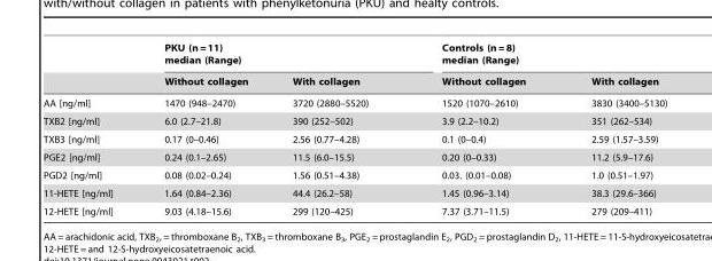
<table><thead><tr><td rowspan="2"></td><td colspan="2">PKU (n = 11) median (Range)</td><td colspan="2">Controls (n = 8) median (Range)</td></tr><tr><td>Without collagen</td><td>With collagen</td><td>Without collagen</td><td>With collagen</td></tr></thead><tbody><tr><td>AA [ng/ml]</td><td>1470 (948–2470)</td><td>3720 (2880–5520)</td><td>1520 (1070–2610)</td><td>3830 (3400–5130)</td></tr><tr><td>TXB2 [ng/ml]</td><td>6.0 (2.7–21.8)</td><td>390 (252–502)</td><td>3.9 (2.2–10.2)</td><td>351 (262–534)</td></tr><tr><td>TXB3 [ng/ml]</td><td>0.17 (0–0.46)</td><td>2.56 (0.77–4.28)</td><td>0.1 (0–0.4)</td><td>2.59 (1.57–3.59)</td></tr><tr><td>PGE2 [ng/ml]</td><td>0.24 (0.1–2.65)</td><td>11.5 (6.0–15.5)</td><td>0.20 (0–0.33)</td><td>11.2 (5.9–17.6)</td></tr><tr><td>PGD2 [ng/ml]</td><td>0.08 (0.02–0.24)</td><td>1.56 (0.51–4.38)</td><td>0.03. (0.01–0.08)</td><td>1.0 (0.51–1.97)</td></tr><tr><td>11-HETE [ng/ml]</td><td>1.64 (0.84–2.36)</td><td>44.4 (26.2–58)</td><td>1.45 (0.96–3.14)</td><td>38.3 (29.6–366)</td></tr><tr><td>12-HETE [ng/ml]</td><td>9.03 (4.18–15.6)</td><td>299 (120–425)</td><td>7.37 (3.71–11.5)</td><td>279 (209–411)</td></tr></tbody></table>